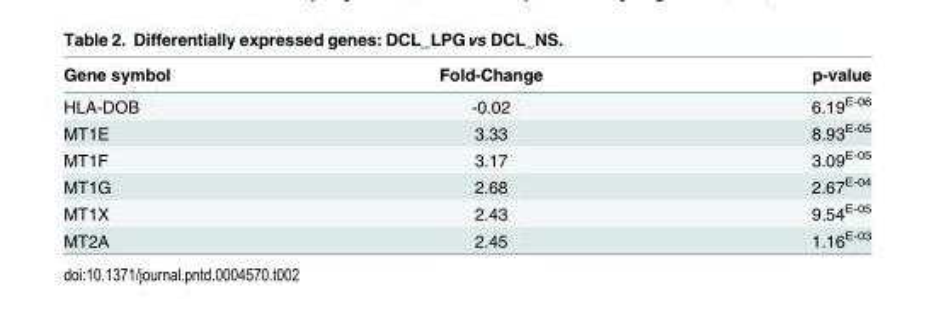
<table><thead><tr><td>Gene symbol</td><td>Fold-Change</td><td>p-value</td></tr></thead><tbody><tr><td>HLA-DOB</td><td>-0.02</td><td>6.19<sup>E-06</sup></td></tr><tr><td>MT1E</td><td>3.33</td><td>8.93<sup>E-05</sup></td></tr><tr><td>MT1F</td><td>3.17</td><td>3.09<sup>E-05</sup></td></tr><tr><td>MT1G</td><td>2.68</td><td>2.67<sup>E-04</sup></td></tr><tr><td>MT1X</td><td>2.43</td><td>9.54<sup>E-05</sup></td></tr><tr><td>MT2A</td><td>2.45</td><td>1.16<sup>E-03</sup></td></tr></tbody></table>